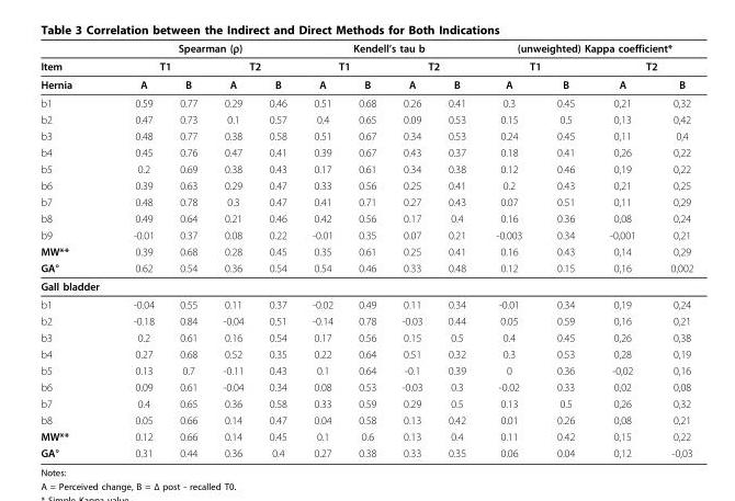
<table><thead><tr><td rowspan="3">Item Hernia</td><td colspan="4">Spearman (ρ)</td><td colspan="4">Kendell’s tau b</td><td colspan="4">(unweighted) Kappa coefficient*</td></tr><tr><td colspan="2">T1</td><td colspan="2">T2</td><td colspan="2">T1</td><td colspan="2">T2</td><td colspan="2">T1</td><td colspan="2">T2</td></tr><tr><td>A</td><td>B</td><td>A</td><td>B</td><td>A</td><td>B</td><td>A</td><td>B</td><td>A</td><td>B</td><td>A</td><td>B</td></tr></thead><tbody><tr><td>b1</td><td>0.59</td><td>0.77</td><td>0.29</td><td>0.46</td><td>0.51</td><td>0.68</td><td>0.26</td><td>0.41</td><td>0.3</td><td>0.45</td><td>0,21</td><td>0,32</td></tr><tr><td>b2</td><td>0.47</td><td>0.73</td><td>0.1</td><td>0.57</td><td>0.4</td><td>0.65</td><td>0.09</td><td>0.53</td><td>0.15</td><td>0.5</td><td>0,13</td><td>0,42</td></tr><tr><td>b3</td><td>0.48</td><td>0.77</td><td>0.38</td><td>0.58</td><td>0.51</td><td>0.67</td><td>0.34</td><td>0.53</td><td>0.24</td><td>0.45</td><td>0,11</td><td>0,4</td></tr><tr><td>b4</td><td>0.45</td><td>0.76</td><td>0.47</td><td>0.41</td><td>0.39</td><td>0.67</td><td>0.43</td><td>0.37</td><td>0.18</td><td>0.41</td><td>0,26</td><td>0,22</td></tr><tr><td>b5</td><td>0.2</td><td>0.69</td><td>0.38</td><td>0.43</td><td>0.17</td><td>0.61</td><td>0.34</td><td>0.38</td><td>0.12</td><td>0.46</td><td>0,19</td><td>0,22</td></tr><tr><td>b6</td><td>0.39</td><td>0.63</td><td>0.29</td><td>0.47</td><td>0.33</td><td>0.56</td><td>0.25</td><td>0.41</td><td>0.2</td><td>0.43</td><td>0,21</td><td>0,25</td></tr><tr><td>b7</td><td>0.48</td><td>0.78</td><td>0.3</td><td>0.47</td><td>0.41</td><td>0.71</td><td>0.27</td><td>0.43</td><td>0.07</td><td>0.51</td><td>0,11</td><td>0,29</td></tr><tr><td>b8</td><td>0.49</td><td>0.64</td><td>0.21</td><td>0.46</td><td>0.42</td><td>0.56</td><td>0.17</td><td>0.4</td><td>0.16</td><td>0.36</td><td>0,08</td><td>0,24</td></tr><tr><td>b9</td><td>-0.01</td><td>0.37</td><td>0.08</td><td>0.22</td><td>-0.01</td><td>0.35</td><td>0.07</td><td>0.21</td><td>-0.003</td><td>0.34</td><td>-0,001</td><td>0,21</td></tr><tr><td>MW**</td><td>0.39</td><td>0.68</td><td>0.28</td><td>0.45</td><td>0.35</td><td>0.61</td><td>0.25</td><td>0.41</td><td>0.16</td><td>0.43</td><td>0,14</td><td>0,29</td></tr><tr><td>GA°</td><td>0.62</td><td>0.54</td><td>0.36</td><td>0.54</td><td>0.54</td><td>0.46</td><td>0.33</td><td>0.48</td><td>0.12</td><td>0.15</td><td>0,16</td><td>0,002</td></tr><tr><td colspan="13">Gall bladder</td></tr><tr><td>b1</td><td>-0.04</td><td>0.55</td><td>0.11</td><td>0.37</td><td>-0.02</td><td>0.49</td><td>0.11</td><td>0.34</td><td>-0.01</td><td>0.34</td><td>0,19</td><td>0,24</td></tr><tr><td>b2</td><td>-0.18</td><td>0.84</td><td>-0.04</td><td>0.51</td><td>-0.14</td><td>0.78</td><td>-0.03</td><td>0.44</td><td>0.05</td><td>0.59</td><td>0,16</td><td>0,21</td></tr><tr><td>b3</td><td>0.2</td><td>0.61</td><td>0.16</td><td>0.54</td><td>0.17</td><td>0.56</td><td>0.15</td><td>0.5</td><td>0.4</td><td>0.45</td><td>0,26</td><td>0,38</td></tr><tr><td>b4</td><td>0.27</td><td>0.68</td><td>0.52</td><td>0.35</td><td>0.22</td><td>0.64</td><td>0.51</td><td>0.32</td><td>0.3</td><td>0.53</td><td>0,28</td><td>0,19</td></tr><tr><td>b5</td><td>0.13</td><td>0.7</td><td>-0.11</td><td>0.43</td><td>0.1</td><td>0.64</td><td>-0.1</td><td>0.39</td><td>0</td><td>0.36</td><td>-0,02</td><td>0,16</td></tr><tr><td>b6</td><td>0.09</td><td>0.61</td><td>-0.04</td><td>0.34</td><td>0.08</td><td>0.53</td><td>-0.03</td><td>0.3</td><td>-0.02</td><td>0.33</td><td>0,02</td><td>0,08</td></tr><tr><td>b7</td><td>0.4</td><td>0.65</td><td>0.36</td><td>0.58</td><td>0.33</td><td>0.59</td><td>0.29</td><td>0.5</td><td>0.13</td><td>0.5</td><td>0,26</td><td>0,32</td></tr><tr><td>b8</td><td>0.05</td><td>0.66</td><td>0.14</td><td>0.47</td><td>0.04</td><td>0.58</td><td>0.13</td><td>0.42</td><td>0.01</td><td>0.26</td><td>0,08</td><td>0,21</td></tr><tr><td>MW**</td><td>0.12</td><td>0.66</td><td>0.14</td><td>0.45</td><td>0.1</td><td>0.6</td><td>0.13</td><td>0.4</td><td>0.11</td><td>0.42</td><td>0,15</td><td>0,22</td></tr><tr><td>GA°</td><td>0.31</td><td>0.44</td><td>0.36</td><td>0.4</td><td>0.27</td><td>0.38</td><td>0.33</td><td>0.35</td><td>0.06</td><td>0.04</td><td>0,12</td><td>-0,03</td></tr></tbody></table>